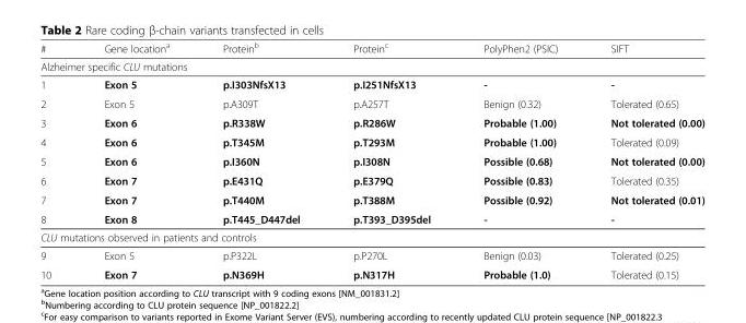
<table><thead><tr><td>#</td><td>Gene location<sup>a</sup></td><td>Protein<sup>b</sup></td><td>Protein<sup>c</sup></td><td>PolyPhen2 (PSIC)</td><td>SIFT</td></tr></thead><tbody><tr><td colspan="6">Alzheimer specific CLU mutations</td></tr><tr><td>1</td><td>Exon 5</td><td>p.I303NfsX13</td><td>p.I251NfsX13</td><td>-</td><td>-</td></tr><tr><td>2</td><td>Exon 5</td><td>p.A309T</td><td>p.A257T</td><td>Benign (0.32)</td><td>Tolerated (0.65)</td></tr><tr><td>3</td><td>Exon 6</td><td>p.R338W</td><td>p.R286W</td><td>Probable (1.00)</td><td>Not tolerated (0.00)</td></tr><tr><td>4</td><td>Exon 6</td><td>p.T345M</td><td>p.T293M</td><td>Probable (1.00)</td><td>Tolerated (0.09)</td></tr><tr><td>5</td><td>Exon 6</td><td>p.I360N</td><td>p.I308N</td><td>Possible (0.68)</td><td>Not tolerated (0.00)</td></tr><tr><td>6</td><td>Exon 7</td><td>p.E431Q</td><td>p.E379Q</td><td>Possible (0.83)</td><td>Tolerated (0.35)</td></tr><tr><td>7</td><td>Exon 7</td><td>p.T440M</td><td>p.T388M</td><td>Possible (0.92)</td><td>Not tolerated (0.01)</td></tr><tr><td>8</td><td>Exon 8</td><td>p.T445_D447del</td><td>p.T393_D395del</td><td>-</td><td>-</td></tr><tr><td colspan="6">CLU mutations observed in patients and controls</td></tr><tr><td>9</td><td>Exon 5</td><td>p.P322L</td><td>p.P270L</td><td>Benign (0.03)</td><td>Tolerated (0.25)</td></tr><tr><td>10</td><td>Exon 7</td><td>p.N369H</td><td>p.N317H</td><td>Probable (1.0)</td><td>Tolerated (0.15)</td></tr></tbody></table>